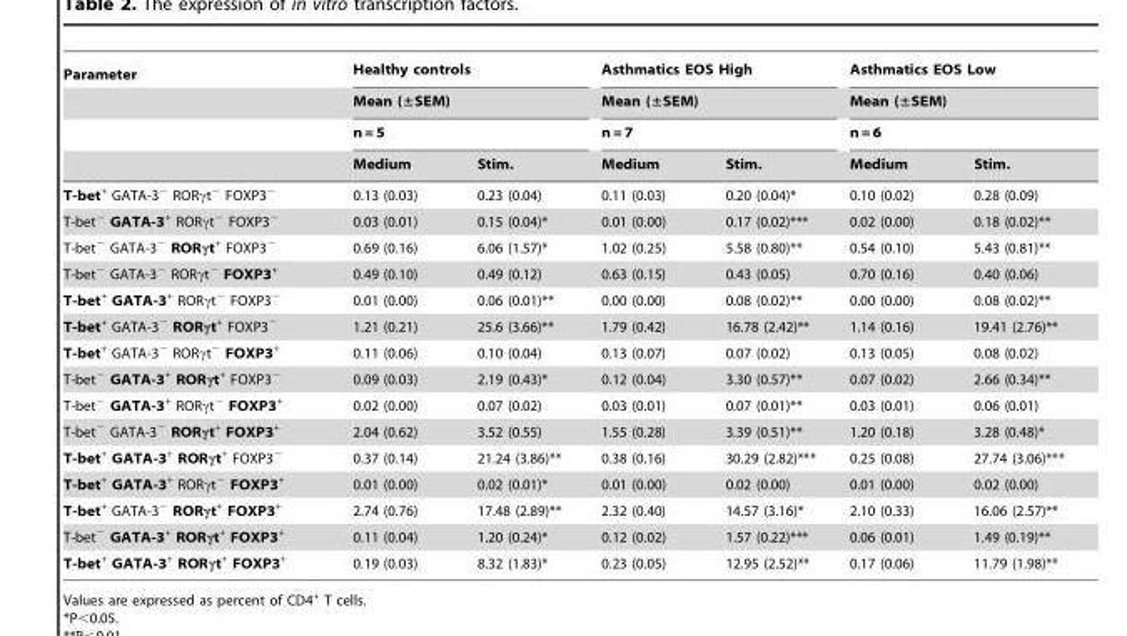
<table><thead><tr><td rowspan="4">Parameter</td><td rowspan="3" colspan="2">Healthy controls Mean (±SEM) n = 5</td><td rowspan="3" colspan="2">Asthmatics EOS High Mean (±SEM) n = 7</td><td rowspan="3" colspan="2">Asthmatics EOS Low Mean (±SEM) n = 6</td></tr><tr></tr><tr></tr><tr><td>Medium</td><td>Stim.</td><td>Medium</td><td>Stim.</td><td>Medium</td><td>Stim.</td></tr></thead><tbody><tr><td>T-bet<sup>+</sup> GATA-3<sup>−</sup> RORγt<sup>−</sup> FOXP3<sup>−</sup></td><td>0.13 (0.03)</td><td>0.23 (0.04)</td><td>0.11 (0.03)</td><td>0.20 (0.04)*</td><td>0.10 (0.02)</td><td>0.28 (0.09)</td></tr><tr><td>T-bet<sup>−</sup> GATA-3<sup>+</sup> RORγt<sup>−</sup> FOXP3<sup>−</sup></td><td>0.03 (0.01)</td><td>0.15 (0.04)*</td><td>0.01 (0.00)</td><td>0.17 (0.02)***</td><td>0.02 (0.00)</td><td>0.18 (0.02)**</td></tr><tr><td>T-bet<sup>−</sup> GATA-3<sup>−</sup> RORγt<sup>+</sup> FOXP3<sup>−</sup></td><td>0.69 (0.16)</td><td>6.06 (1.57)*</td><td>1.02 (0.25)</td><td>5.58 (0.80)**</td><td>0.54 (0.10)</td><td>5.43 (0.81)**</td></tr><tr><td>T-bet<sup>−</sup> GATA-3<sup>−</sup> RORγt<sup>−</sup> FOXP3<sup>+</sup></td><td>0.49 (0.10)</td><td>0.49 (0.12)</td><td>0.63 (0.15)</td><td>0.43 (0.05)</td><td>0.70 (0.16)</td><td>0.40 (0.06)</td></tr><tr><td>T-bet<sup>+</sup> GATA-3<sup>+</sup> RORγt<sup>−</sup> FOXP3<sup>−</sup></td><td>0.01 (0.00)</td><td>0.06 (0.01)**</td><td>0.00 (0.00)</td><td>0.08 (0.02)**</td><td>0.00 (0.00)</td><td>0.08 (0.02)**</td></tr><tr><td>T-bet<sup>+</sup> GATA-3<sup>−</sup> RORγt<sup>+</sup> FOXP3<sup>−</sup></td><td>1.21 (0.21)</td><td>25.6 (3.66)**</td><td>1.79 (0.42)</td><td>16.78 (2.42)**</td><td>1.14 (0.16)</td><td>19.41 (2.76)**</td></tr><tr><td>T-bet<sup>+</sup> GATA-3<sup>−</sup> RORγt<sup>−</sup> FOXP3<sup>+</sup></td><td>0.11 (0.06)</td><td>0.10 (0.04)</td><td>0.13 (0.07)</td><td>0.07 (0.02)</td><td>0.13 (0.05)</td><td>0.08 (0.02)</td></tr><tr><td>T-bet<sup>−</sup> GATA-3<sup>+</sup> RORγt<sup>+</sup> FOXP3<sup>−</sup></td><td>0.09 (0.03)</td><td>2.19 (0.43)*</td><td>0.12 (0.04)</td><td>3.30 (0.57)**</td><td>0.07 (0.02)</td><td>2.66 (0.34)**</td></tr><tr><td>T-bet<sup>−</sup> GATA-3<sup>+</sup> RORγt<sup>−</sup> FOXP3<sup>+</sup></td><td>0.02 (0.00)</td><td>0.07 (0.02)</td><td>0.03 (0.01)</td><td>0.07 (0.01)**</td><td>0.03 (0.01)</td><td>0.06 (0.01)</td></tr><tr><td>T-bet<sup>−</sup> GATA-3<sup>−</sup> RORγt<sup>+</sup> FOXP3<sup>+</sup></td><td>2.04 (0.62)</td><td>3.52 (0.55)</td><td>1.55 (0.28)</td><td>3.39 (0.51)**</td><td>1.20 (0.18)</td><td>3.28 (0.48)*</td></tr><tr><td>T-bet<sup>+</sup> GATA-3<sup>+</sup> RORγt<sup>+</sup> FOXP3<sup>−</sup></td><td>0.37 (0.14)</td><td>21.24 (3.86)**</td><td>0.38 (0.16)</td><td>30.29 (2.82)***</td><td>0.25 (0.08)</td><td>27.74 (3.06)***</td></tr><tr><td>T-bet<sup>+</sup> GATA-3<sup>+</sup> RORγt<sup>−</sup> FOXP3<sup>+</sup></td><td>0.01 (0.00)</td><td>0.02 (0.01)*</td><td>0.01 (0.00)</td><td>0.02 (0.00)</td><td>0.01 (0.00)</td><td>0.02 (0.00)</td></tr><tr><td>T-bet<sup>+</sup> GATA-3<sup>−</sup> RORγt<sup>+</sup> FOXP3<sup>+</sup></td><td>2.74 (0.76)</td><td>17.48 (2.89)**</td><td>2.32 (0.40)</td><td>14.57 (3.16)*</td><td>2.10 (0.33)</td><td>16.06 (2.57)**</td></tr><tr><td>T-bet<sup>−</sup> GATA-3<sup>+</sup> RORγt<sup>+</sup> FOXP3<sup>+</sup></td><td>0.11 (0.04)</td><td>1.20 (0.24)*</td><td>0.12 (0.02)</td><td>1.57 (0.22)***</td><td>0.06 (0.01)</td><td>1.49 (0.19)**</td></tr><tr><td>T-bet<sup>+</sup> GATA-3<sup>+</sup> RORγt<sup>+</sup> FOXP3<sup>+</sup></td><td>0.19 (0.03)</td><td>8.32 (1.83)*</td><td>0.23 (0.05)</td><td>12.95 (2.52)**</td><td>0.17 (0.06)</td><td>11.79 (1.98)**</td></tr></tbody></table>